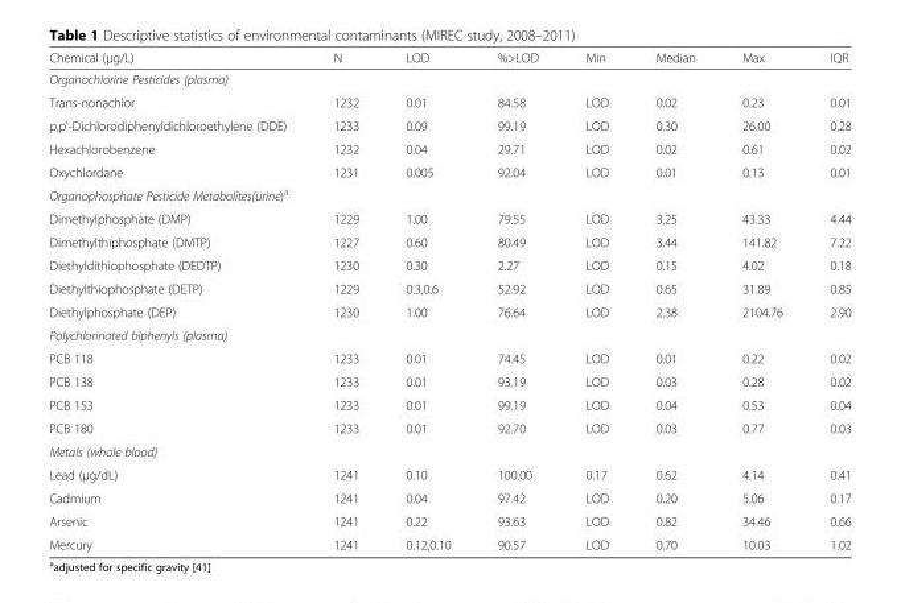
<table><thead><tr><td>Chemical (μg/L)</td><td>N</td><td>LOD</td><td>%&gt;LOD</td><td>Min</td><td>Median</td><td>Max</td><td>IQR</td></tr></thead><tbody><tr><td colspan="8">Organochlorine Pesticides (plasma)</td></tr><tr><td>Trans-nonachlor</td><td>1232</td><td>0.01</td><td>84.58</td><td>LOD</td><td>0.02</td><td>0.23</td><td>0.01</td></tr><tr><td>p,p&#x27;-Dichlorodiphenyldichloroethylene (DDE)</td><td>1233</td><td>0.09</td><td>99.19</td><td>LOD</td><td>0.30</td><td>26.00</td><td>0.28</td></tr><tr><td>Hexachlorobenzene</td><td>1232</td><td>0.04</td><td>29.71</td><td>LOD</td><td>0.02</td><td>0.61</td><td>0.02</td></tr><tr><td>Oxychlordane</td><td>1231</td><td>0.005</td><td>92.04</td><td>LOD</td><td>0.01</td><td>0.13</td><td>0.01</td></tr><tr><td colspan="8">Organophosphate Pesticide Metabolites(urine)<sup>a</sup></td></tr><tr><td>Dimethylphosphate (DMP)</td><td>1229</td><td>1.00</td><td>79.55</td><td>LOD</td><td>3.25</td><td>43.33</td><td>4.44</td></tr><tr><td>Dimethylthiphosphate (DMTP)</td><td>1227</td><td>0.60</td><td>80.49</td><td>LOD</td><td>3.44</td><td>141.82</td><td>7.22</td></tr><tr><td>Diethyldithiophosphate (DEDTP)</td><td>1230</td><td>0.30</td><td>2.27</td><td>LOD</td><td>0.15</td><td>4.02</td><td>0.18</td></tr><tr><td>Diethylthiophosphate (DETP)</td><td>1229</td><td>0.3,0.6</td><td>52.92</td><td>LOD</td><td>0.65</td><td>31.89</td><td>0.85</td></tr><tr><td>Diethylphosphate (DEP)</td><td>1230</td><td>1.00</td><td>76.64</td><td>LOD</td><td>2.38</td><td>2104.76</td><td>2.90</td></tr><tr><td colspan="8">Polychlorinated biphenyls (plasma)</td></tr><tr><td>PCB 118</td><td>1233</td><td>0.01</td><td>74.45</td><td>LOD</td><td>0.01</td><td>0.22</td><td>0.02</td></tr><tr><td>PCB 138</td><td>1233</td><td>0.01</td><td>93.19</td><td>LOD</td><td>0.03</td><td>0.28</td><td>0.02</td></tr><tr><td>PCB 153</td><td>1233</td><td>0.01</td><td>99.19</td><td>LOD</td><td>0.04</td><td>0.53</td><td>0.04</td></tr><tr><td>PCB 180</td><td>1233</td><td>0.01</td><td>92.70</td><td>LOD</td><td>0.03</td><td>0.77</td><td>0.03</td></tr><tr><td colspan="8">Metals (whole blood)</td></tr><tr><td>Lead (μg/dL)</td><td>1241</td><td>0.10</td><td>100.00</td><td>0.17</td><td>0.62</td><td>4.14</td><td>0.41</td></tr><tr><td>Cadmium</td><td>1241</td><td>0.04</td><td>97.42</td><td>LOD</td><td>0.20</td><td>5.06</td><td>0.17</td></tr><tr><td>Arsenic</td><td>1241</td><td>0.22</td><td>93.63</td><td>LOD</td><td>0.82</td><td>34.46</td><td>0.66</td></tr><tr><td>Mercury</td><td>1241</td><td>0.12,0.10</td><td>90.57</td><td>LOD</td><td>0.70</td><td>10.03</td><td>1.02</td></tr></tbody></table>